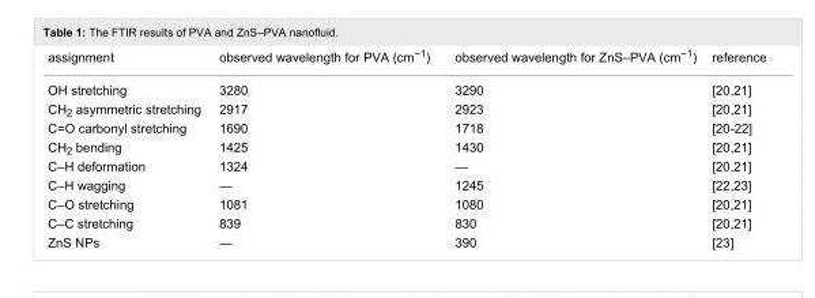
<table><tbody><tr><td>assignment</td><td>observed wavelength for PVA (cm<sup>−1</sup>)</td><td>observed wavelength for ZnS–PVA (cm<sup>−1</sup>)</td><td>reference</td></tr><tr><td>OH stretching</td><td>3280</td><td>3290</td><td>[20–21]</td></tr><tr><td>CH<sub>2</sub> asymmetric stretching</td><td>2917</td><td>2923</td><td>[20–21]</td></tr><tr><td>C=O carbonyl stretching</td><td>1690</td><td>1718</td><td>[20-22]</td></tr><tr><td>CH<sub>2</sub> bending</td><td>1425</td><td>1430</td><td>[20–21]</td></tr><tr><td>C–H deformation</td><td>1324</td><td>—</td><td>[20–21]</td></tr><tr><td>C–H wagging</td><td>—</td><td>1245</td><td>[22–23]</td></tr><tr><td>C–O stretching</td><td>1081</td><td>1080</td><td>[20–21]</td></tr><tr><td>C–C stretching</td><td>839</td><td>830</td><td>[20–21]</td></tr><tr><td>ZnS NPs</td><td>—</td><td>390</td><td>[23]</td></tr></tbody></table>